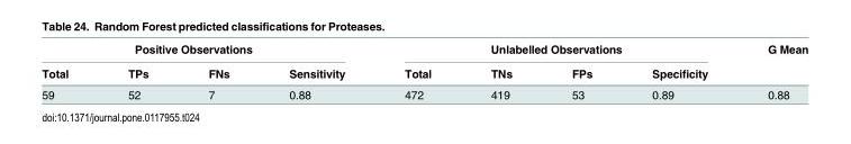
<table><thead><tr><td colspan="4">Positive Observations</td><td colspan="4">Unlabelled Observations</td><td rowspan="2">G Mean</td></tr><tr><td>Total</td><td>TPs</td><td>FNs</td><td>Sensitivity</td><td>Total</td><td>TNs</td><td>FPs</td><td>Specificity</td></tr></thead><tbody><tr><td>59</td><td>52</td><td>7</td><td>0.88</td><td>472</td><td>419</td><td>53</td><td>0.89</td><td>0.88</td></tr></tbody></table>